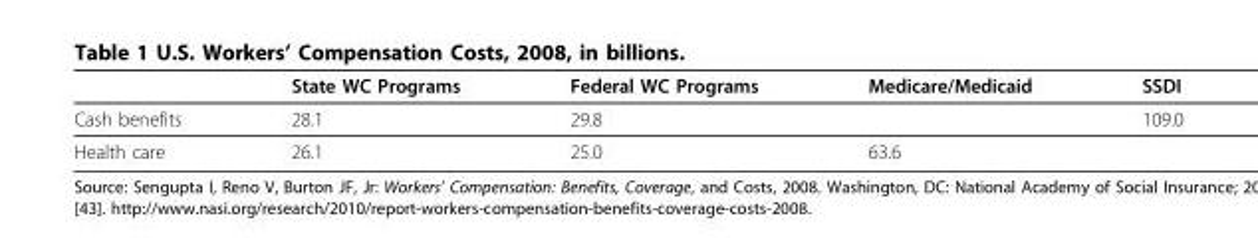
<table><thead><tr><td></td><td>State WC Programs</td><td>Federal WC Programs</td><td>Medicare/Medicaid</td><td>SSDI</td></tr></thead><tbody><tr><td>Cash benefits</td><td>28.1</td><td>29.8</td><td></td><td>109.0</td></tr><tr><td>Health care</td><td>26.1</td><td>25.0</td><td>63.6</td><td></td></tr></tbody></table>